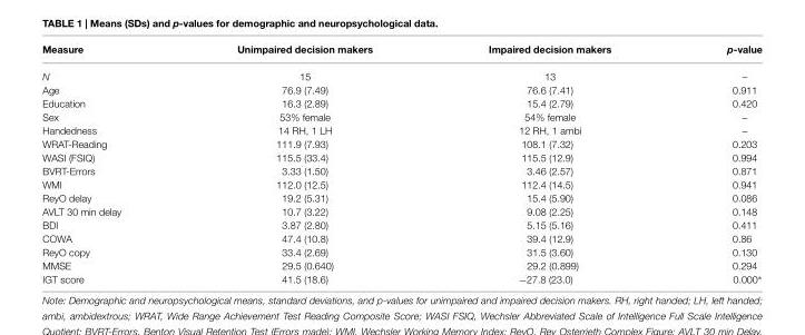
<table><thead><tr><td>Measure</td><td>Unimpaired decision makers</td><td>Impaired decision makers</td><td>p-value</td></tr></thead><tbody><tr><td>N</td><td>15</td><td>13</td><td>–</td></tr><tr><td>Age</td><td>76.9 (7.49)</td><td>76.6 (7.41)</td><td>0.911</td></tr><tr><td>Education</td><td>16.3 (2.89)</td><td>15.4 (2.79)</td><td>0.420</td></tr><tr><td>Sex</td><td>53% female</td><td>54% female</td><td>–</td></tr><tr><td>Handedness</td><td>14 RH, 1 LH</td><td>12 RH, 1 ambi</td><td>–</td></tr><tr><td>WRAT-Reading</td><td>111.9 (7.93)</td><td>108.1 (7.32)</td><td>0.203</td></tr><tr><td>WASI (FSIQ)</td><td>115.5 (33.4)</td><td>115.5 (12.9)</td><td>0.994</td></tr><tr><td>BVRT-Errors</td><td>3.33 (1.50)</td><td>3.46 (2.57)</td><td>0.871</td></tr><tr><td>WMI</td><td>112.0 (12.5)</td><td>112.4 (14.5)</td><td>0.941</td></tr><tr><td>ReyO delay</td><td>19.2 (5.31)</td><td>15.4 (5.90)</td><td>0.086</td></tr><tr><td>AVLT 30 min delay</td><td>10.7 (3.22)</td><td>9.08 (2.25)</td><td>0.148</td></tr><tr><td>BDI</td><td>3.87 (2.80)</td><td>5.15 (5.16)</td><td>0.411</td></tr><tr><td>COWA</td><td>47.4 (10.8)</td><td>39.4 (12.9)</td><td>0.86</td></tr><tr><td>ReyO copy</td><td>33.4 (2.69)</td><td>31.5 (3.60)</td><td>0.130</td></tr><tr><td>MMSE</td><td>29.5 (0.640)</td><td>29.2 (0.899)</td><td>0.294</td></tr><tr><td>IGT score</td><td>41.5 (18.6)</td><td>−27.8 (23.0)</td><td>0.000∗</td></tr></tbody></table>